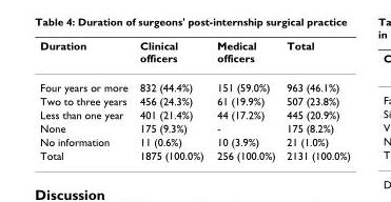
<table><thead><tr><td>Duration</td><td>Clinical officers</td><td>Medical officers</td><td>Total</td></tr></thead><tbody><tr><td>Four years or more</td><td>832 (44.4%)</td><td>151 (59.0%)</td><td>963 (46.1%)</td></tr><tr><td>Two to three years</td><td>456 (24.3%)</td><td>61 (19.9%)</td><td>507 (23.8%)</td></tr><tr><td>Less than one year</td><td>401 (21.4%)</td><td>44 (17.2%)</td><td>445 (20.9%)</td></tr><tr><td>None</td><td>175 (9.3%)</td><td>-</td><td>175 (8.2%)</td></tr><tr><td>No information</td><td>11 (0.6%)</td><td>10 (3.9%)</td><td>21 (1.0%)</td></tr><tr><td>Total</td><td>1875 (100.0%)</td><td>256 (100.0%)</td><td>2131 (100.0%)</td></tr></tbody></table>